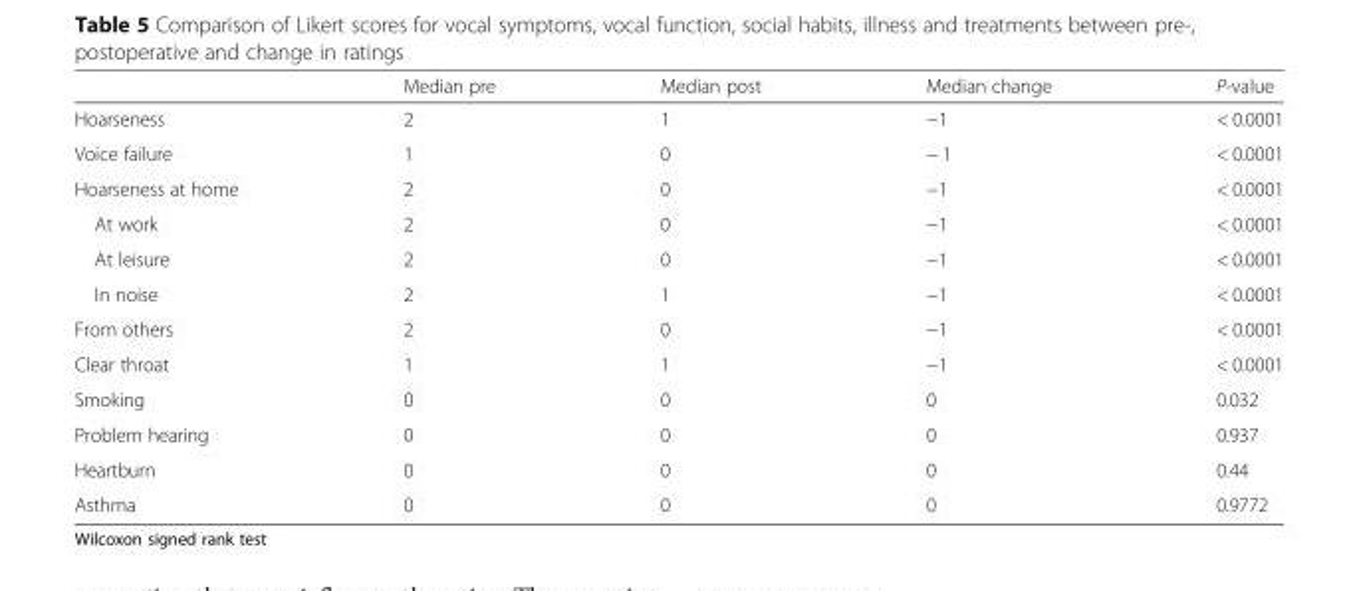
<table><thead><tr><td></td><td>Median pre</td><td>Median post</td><td>Median change</td><td>P-value</td></tr></thead><tbody><tr><td>Hoarseness</td><td>2</td><td>1</td><td>−1</td><td>&lt; 0.0001</td></tr><tr><td>Voice failure</td><td>1</td><td>0</td><td>− 1</td><td>&lt; 0.0001</td></tr><tr><td>Hoarseness at home</td><td>2</td><td>0</td><td>−1</td><td>&lt; 0.0001</td></tr><tr><td>At work</td><td>2</td><td>0</td><td>−1</td><td>&lt; 0.0001</td></tr><tr><td>At leisure</td><td>2</td><td>0</td><td>−1</td><td>&lt; 0.0001</td></tr><tr><td>In noise</td><td>2</td><td>1</td><td>−1</td><td>&lt; 0.0001</td></tr><tr><td>From others</td><td>2</td><td>0</td><td>−1</td><td>&lt; 0.0001</td></tr><tr><td>Clear throat</td><td>1</td><td>1</td><td>−1</td><td>&lt; 0.0001</td></tr><tr><td>Smoking</td><td>0</td><td>0</td><td>0</td><td>0.032</td></tr><tr><td>Problem hearing</td><td>0</td><td>0</td><td>0</td><td>0.937</td></tr><tr><td>Heartburn</td><td>0</td><td>0</td><td>0</td><td>0.44</td></tr><tr><td>Asthma</td><td>0</td><td>0</td><td>0</td><td>0.9772</td></tr></tbody></table>